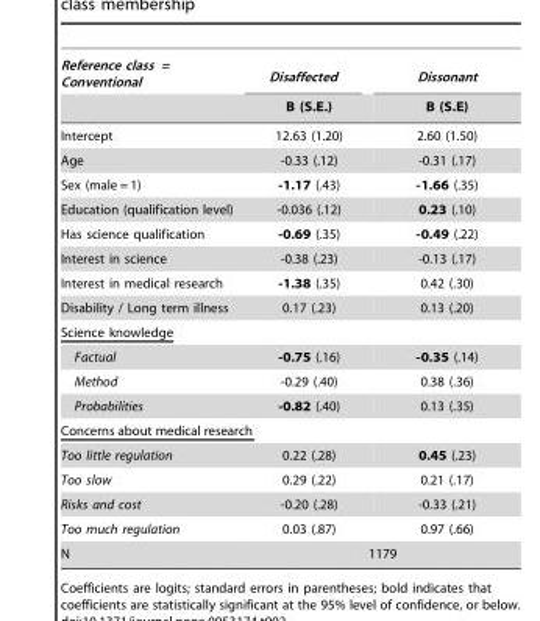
<table><thead><tr><td rowspan="2">Reference class = Conventional</td><td rowspan="2">Disaffected B (S.E.)</td><td rowspan="2">Dissonant B (S.E)</td></tr><tr></tr></thead><tbody><tr><td>Intercept</td><td>12.63 (1.20)</td><td>2.60 (1.50)</td></tr><tr><td>Age</td><td>-0.33 (.12)</td><td>-0.31 (.17)</td></tr><tr><td>Sex (male = 1)</td><td>-1.17 (.43)</td><td>-1.66 (.35)</td></tr><tr><td>Education (qualification level)</td><td>-0.036 (.12)</td><td>0.23 (.10)</td></tr><tr><td>Has science qualification</td><td>-0.69 (.35)</td><td>-0.49 (.22)</td></tr><tr><td>Interest in science</td><td>-0.38 (.23)</td><td>-0.13 (.17)</td></tr><tr><td>Interest in medical research</td><td>-1.38 (.35)</td><td>0.42 (.30)</td></tr><tr><td>Disability / Long term illness</td><td>0.17 (.23)</td><td>0.13 (.20)</td></tr><tr><td colspan="3">Science knowledge</td></tr><tr><td>Factual</td><td>-0.75 (.16)</td><td>-0.35 (.14)</td></tr><tr><td>Method</td><td>-0.29 (.40)</td><td>0.38 (.36)</td></tr><tr><td>Probabilities</td><td>-0.82 (.40)</td><td>0.13 (.35)</td></tr><tr><td colspan="3">Concerns about medical research</td></tr><tr><td>Too little regulation</td><td>0.22 (.28)</td><td>0.45 (.23)</td></tr><tr><td>Too slow</td><td>0.29 (.22)</td><td>0.21 (.17)</td></tr><tr><td>Risks and cost</td><td>-0.20 (.28)</td><td>-0.33 (.21)</td></tr><tr><td>Too much regulation</td><td>0.03 (.87)</td><td>0.97 (.66)</td></tr><tr><td>N</td><td colspan="2">1179</td></tr></tbody></table>